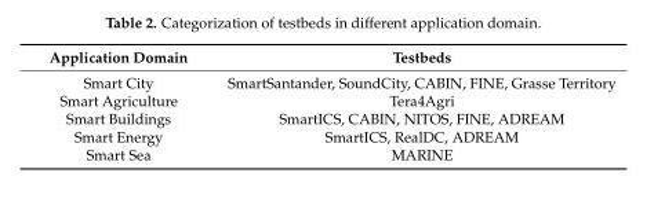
<table><thead><tr><td>Application Domain</td><td>Testbeds</td></tr></thead><tbody><tr><td>Smart City</td><td>SmartSantander, SoundCity, CABIN, FINE, Grasse Territory</td></tr><tr><td>Smart Agriculture</td><td>Tera4Agri</td></tr><tr><td>Smart Buildings</td><td>SmartICS, CABIN, NITOS, FINE, ADREAM</td></tr><tr><td>Smart Energy</td><td>SmartICS, RealDC, ADREAM</td></tr><tr><td>Smart Sea</td><td>MARINE</td></tr></tbody></table>